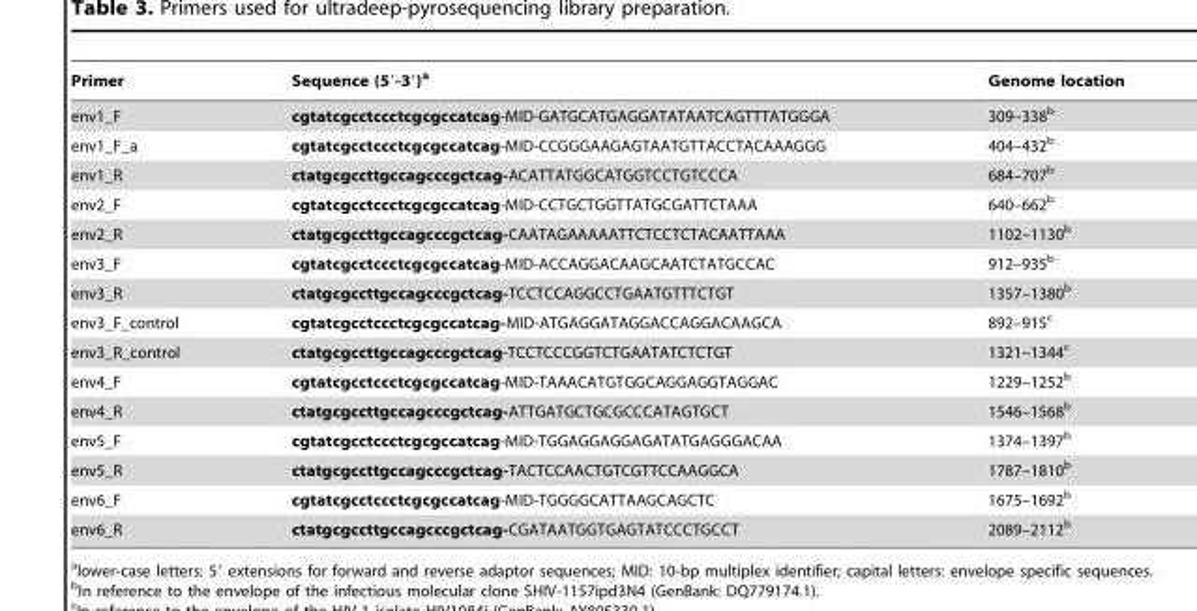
<table><thead><tr><td>Primer</td><td>Sequence (5′-3′)<sup>a</sup></td><td>Genome location</td></tr></thead><tbody><tr><td>env1_F</td><td>cgtatcgcctccctcgcgccatcag-MID-GATGCATGAGGATATAATCAGTTTATGGGA</td><td>309–338<sup>b</sup></td></tr><tr><td>env1_F_a</td><td>cgtatcgcctccctcgcgccatcag-MID-CCGGGAAGAGTAATGTTACCTACAAAGGG</td><td>404–432<sup>b</sup></td></tr><tr><td>env1_R</td><td>ctatgcgccttgccagcccgctcag-ACATTATGGCATGGTCCTGTCCCA</td><td>684–707<sup>b</sup></td></tr><tr><td>env2_F</td><td>cgtatcgcctccctcgcgccatcag-MID-CCTGCTGGTTATGCGATTCTAAA</td><td>640–662<sup>b</sup></td></tr><tr><td>env2_R</td><td>ctatgcgccttgccagcccgctcag-CAATAGAAAAATTCTCCTCTACAATTAAA</td><td>1102–1130<sup>b</sup></td></tr><tr><td>env3_F</td><td>cgtatcgcctccctcgcgccatcag-MID-ACCAGGACAAGCAATCTATGCCAC</td><td>912–935<sup>b</sup></td></tr><tr><td>env3_R</td><td>ctatgcgccttgccagcccgctcag-TCCTCCAGGCCTGAATGTTTCTGT</td><td>1357–1380<sup>b</sup></td></tr><tr><td>env3_F_control</td><td>cgtatcgcctccctcgcgccatcag-MID-ATGAGGATAGGACCAGGACAAGCA</td><td>892–915<sup>c</sup></td></tr><tr><td>env3_R_control</td><td>ctatgcgccttgccagcccgctcag-TCCTCCCGGTCTGAATATCTCTGT</td><td>1321–1344<sup>c</sup></td></tr><tr><td>env4_F</td><td>cgtatcgcctccctcgcgccatcag-MID-TAAACATGTGGCAGGAGGTAGGAC</td><td>1229–1252<sup>b</sup></td></tr><tr><td>env4_R</td><td>ctatgcgccttgccagcccgctcag-ATTGATGCTGCGCCCATAGTGCT</td><td>1546–1568<sup>b</sup></td></tr><tr><td>env5_F</td><td>cgtatcgcctccctcgcgccatcag-MID-TGGAGGAGGAGATATGAGGGACAA</td><td>1374–1397<sup>b</sup></td></tr><tr><td>env5_R</td><td>ctatgcgccttgccagcccgctcag-TACTCCAACTGTCGTTCCAAGGCA</td><td>1787–1810<sup>b</sup></td></tr><tr><td>env6_F</td><td>cgtatcgcctccctcgcgccatcag-MID-TGGGGCATTAAGCAGCTC</td><td>1675–1692<sup>b</sup></td></tr><tr><td>env6_R</td><td>ctatgcgccttgccagcccgctcag-CGATAATGGTGAGTATCCCTGCCT</td><td>2089–2112<sup>b</sup></td></tr></tbody></table>